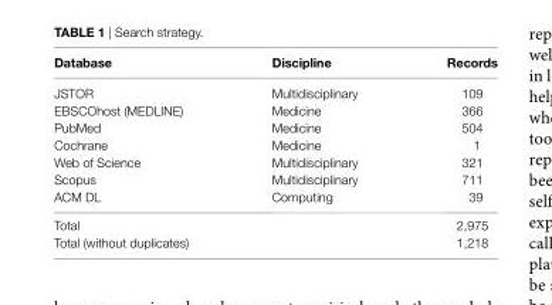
<table><thead><tr><td>Database</td><td>Discipline</td><td>records</td></tr></thead><tbody><tr><td>JSTOR</td><td>Multidisciplinary</td><td>109</td></tr><tr><td>EBSCOhost (MEDLINE)</td><td>Medicine</td><td>366</td></tr><tr><td>PubMed</td><td>Medicine</td><td>504</td></tr><tr><td>Cochrane</td><td>Medicine</td><td>1</td></tr><tr><td>Web of Science</td><td>Multidisciplinary</td><td>321</td></tr><tr><td>Scopus</td><td>Multidisciplinary</td><td>711</td></tr><tr><td>ACM DL</td><td>Computing</td><td>39</td></tr><tr><td colspan="2">Total</td><td>2,975</td></tr><tr><td colspan="2">Total (without duplicates)</td><td>1,218</td></tr></tbody></table>